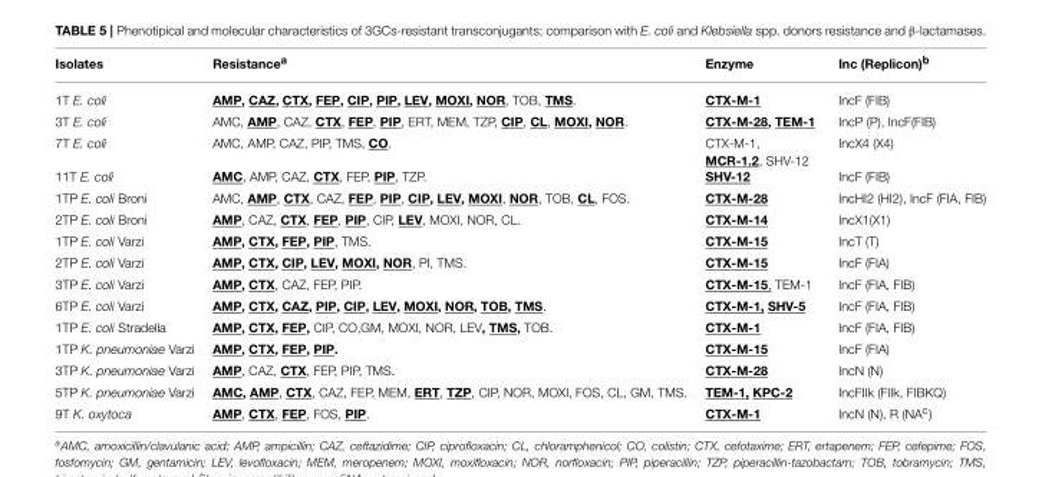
<table><thead><tr><td>Isolates</td><td>Resistance<sup>a</sup></td><td>Enzyme</td><td>Inc (Replicon)<sup>b</sup></td></tr></thead><tbody><tr><td>1T E. coli</td><td>AMP, CAZ, CTX, FEP, CIP, PIP, LEV, MOXI, NOR, TOB, TMS.</td><td>CTX-M-1</td><td>IncF (FIB)</td></tr><tr><td>3T E. coli</td><td>AMC, AMP, CAZ, CTX, FEP, PIP, ERT, MEM, TZP, CIP, CL, MOXI, NOR.</td><td>CTX-M-28, TEM-1</td><td>IncP (P), IncF(FIB)</td></tr><tr><td>7T E. coli</td><td>AMC, AMP, CAZ, PIP, TMS, CO.</td><td>CTX-M-1, MCR-1.2, SHV-12</td><td>IncX4 (X4)</td></tr><tr><td>11T E. coli</td><td>AMC, AMP, CAZ, CTX, FEP, PIP, TZP.</td><td>SHV-12</td><td>IncF (FIB)</td></tr><tr><td>1TP E. coli Broni</td><td>AMC, AMP, CTX, CAZ, FEP, PIP, CIP, LEV, MOXI, NOR, TOB, CL, FOS.</td><td>CTX-M-28</td><td>IncHI2 (HI2), IncF (FIA, FIB)</td></tr><tr><td>2TP E. coli Broni</td><td>AMP, CAZ, CTX, FEP, PIP, CIP, LEV, MOXI, NOR, CL.</td><td>CTX-M-14</td><td>IncX1(X1)</td></tr><tr><td>1TP E. coli Varzi</td><td>AMP, CTX, FEP, PIP, TMS.</td><td>CTX-M-15</td><td>IncT (T)</td></tr><tr><td>2TP E. coli Varzi</td><td>AMP, CTX, CIP, LEV, MOXI, NOR, PI, TMS.</td><td>CTX-M-15</td><td>IncF (FIA)</td></tr><tr><td>3TP E. coli Varzi</td><td>AMP, CTX, CAZ, FEP, PIP.</td><td>CTX-M-15, TEM-1</td><td>IncF (FIA, FIB)</td></tr><tr><td>6TP E. coli Varzi</td><td>AMP, CTX, CAZ, PIP, CIP, LEV, MOXI, NOR, TOB, TMS.</td><td>CTX-M-1, SHV-5</td><td>IncF (FIA, FIB)</td></tr><tr><td>1TP E. coli Stradella</td><td>AMP, CTX, FEP, CIP, CO,GM, MOXI, NOR, LEV, TMS, TOB.</td><td>CTX-M-1</td><td>IncF (FIA, FIB)</td></tr><tr><td>1TP K. pneumoniae Varzi</td><td>AMP, CTX, FEP, PIP.</td><td>CTX-M-15</td><td>IncF (FIA)</td></tr><tr><td>3TP K. pneumoniae Varzi</td><td>AMP, CAZ, CTX, FEP, PIP, TMS.</td><td>CTX-M-28</td><td>IncN (N)</td></tr><tr><td>5TP K. pneumoniae Varzi</td><td>AMC, AMP, CTX, CAZ, FEP, MEM, ERT, TZP, CIP, NOR, MOXI, FOS, CL, GM, TMS.</td><td>TEM-1, KPC-2</td><td>IncFIIk (FIIk, FIBKQ)</td></tr><tr><td>9T K. oxytoca</td><td>AMP, CTX, FEP, FOS, PIP.</td><td>CTX-M-1</td><td>IncN (N), R (NA<sup>c</sup>)</td></tr></tbody></table>